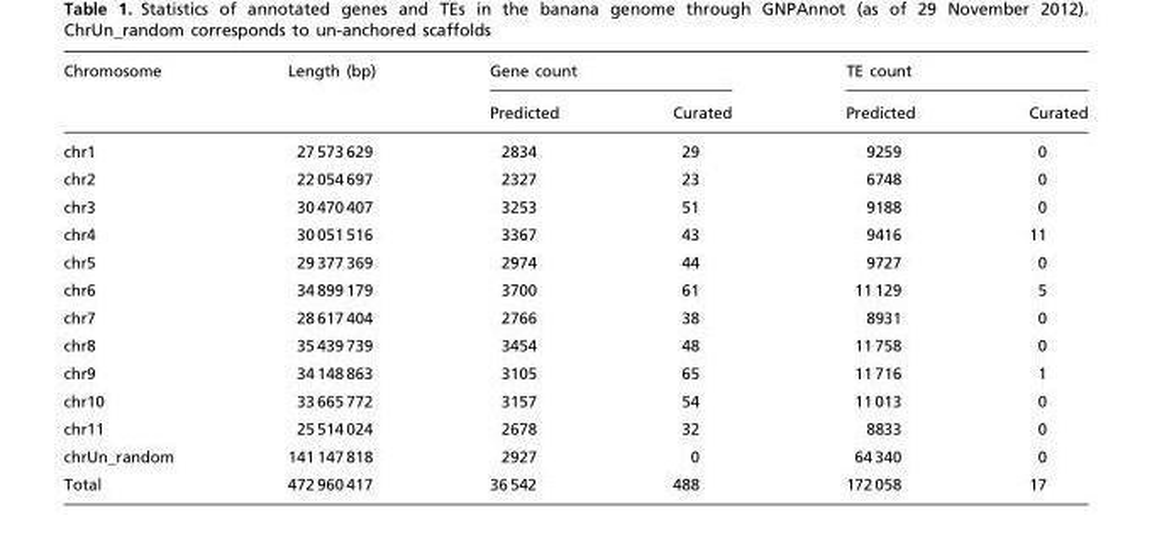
<table><thead><tr><td rowspan="2">Chromosome</td><td rowspan="2">Length (bp)</td><td colspan="2">Gene count</td><td colspan="2">TE count</td></tr><tr><td>Predicted</td><td>Curated</td><td>Predicted</td><td>Curated</td></tr></thead><tbody><tr><td>chr1</td><td>27 573 629</td><td>2834</td><td>29</td><td>9259</td><td>0</td></tr><tr><td>chr2</td><td>22 054 697</td><td>2327</td><td>23</td><td>6748</td><td>0</td></tr><tr><td>chr3</td><td>30 470 407</td><td>3253</td><td>51</td><td>9188</td><td>0</td></tr><tr><td>chr4</td><td>30 051 516</td><td>3367</td><td>43</td><td>9416</td><td>11</td></tr><tr><td>chr5</td><td>29 377 369</td><td>2974</td><td>44</td><td>9727</td><td>0</td></tr><tr><td>chr6</td><td>34 899 179</td><td>3700</td><td>61</td><td>11 129</td><td>5</td></tr><tr><td>chr7</td><td>28 617 404</td><td>2766</td><td>38</td><td>8931</td><td>0</td></tr><tr><td>chr8</td><td>35 439 739</td><td>3454</td><td>48</td><td>11 758</td><td>0</td></tr><tr><td>chr9</td><td>34 148 863</td><td>3105</td><td>65</td><td>11 716</td><td>1</td></tr><tr><td>chr10</td><td>33 665 772</td><td>3157</td><td>54</td><td>11 013</td><td>0</td></tr><tr><td>chr11</td><td>25 514 024</td><td>2678</td><td>32</td><td>8833</td><td>0</td></tr><tr><td>chrUn_random</td><td>141 147 818</td><td>2927</td><td>0</td><td>64 340</td><td>0</td></tr><tr><td>Total</td><td>472 960 417</td><td>36 542</td><td>488</td><td>172 058</td><td>17</td></tr></tbody></table>